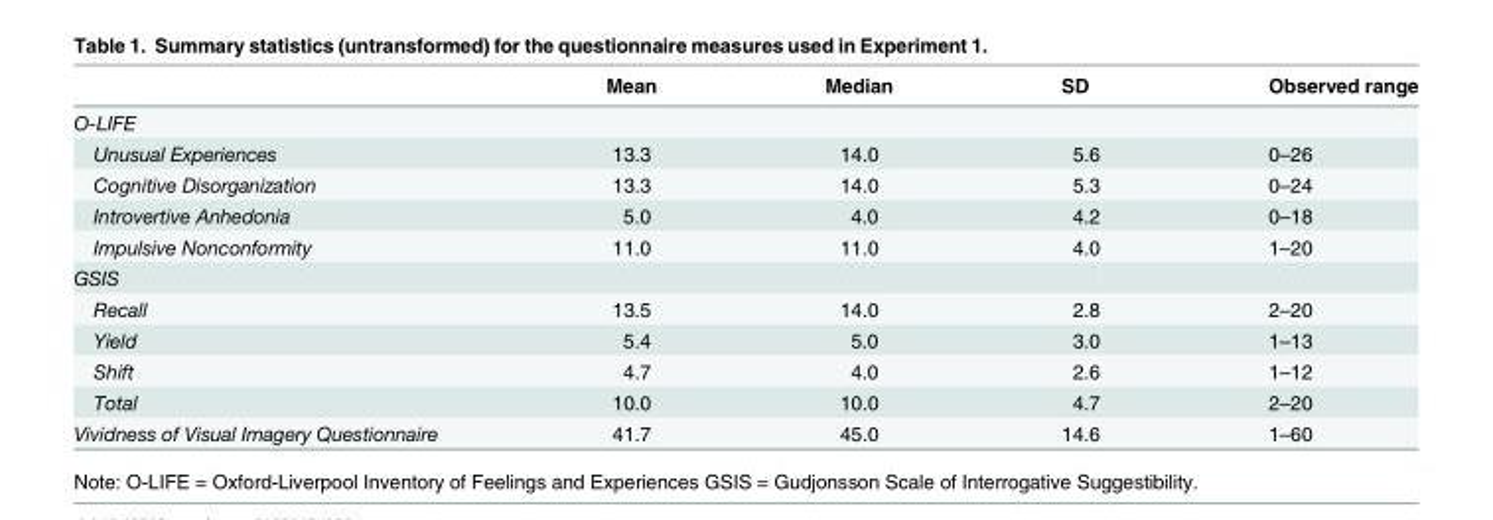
<table><thead><tr><td></td><td>Mean</td><td>Median</td><td>SD</td><td>Observed range</td></tr></thead><tbody><tr><td colspan="5">O-LIFE</td></tr><tr><td>Unusual Experiences</td><td>13.3</td><td>14.0</td><td>5.6</td><td>0–26</td></tr><tr><td>Cognitive Disorganization</td><td>13.3</td><td>14.0</td><td>5.3</td><td>0–24</td></tr><tr><td>Introvertive Anhedonia</td><td>5.0</td><td>4.0</td><td>4.2</td><td>0–18</td></tr><tr><td>Impulsive Nonconformity</td><td>11.0</td><td>11.0</td><td>4.0</td><td>1–20</td></tr><tr><td colspan="5">GSIS</td></tr><tr><td>Recall</td><td>13.5</td><td>14.0</td><td>2.8</td><td>2–20</td></tr><tr><td>Yield</td><td>5.4</td><td>5.0</td><td>3.0</td><td>1–13</td></tr><tr><td>Shift</td><td>4.7</td><td>4.0</td><td>2.6</td><td>1–12</td></tr><tr><td>Total</td><td>10.0</td><td>10.0</td><td>4.7</td><td>2–20</td></tr><tr><td>Vividness of Visual Imagery Questionnaire</td><td>41.7</td><td>45.0</td><td>14.6</td><td>1–60</td></tr></tbody></table>